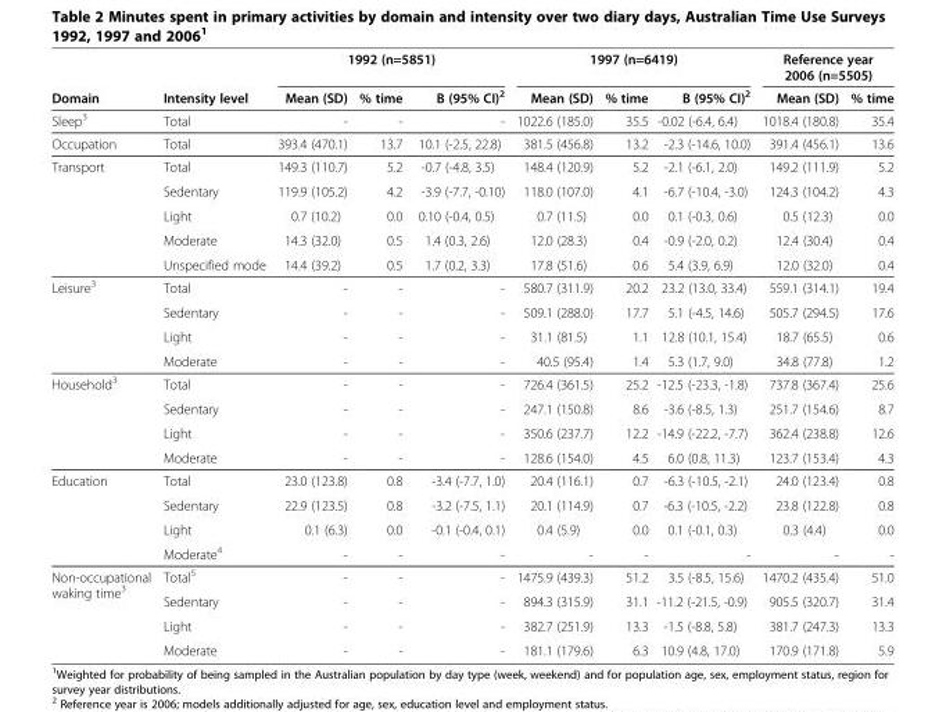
<table><thead><tr><td rowspan="2">Domain</td><td rowspan="2">Intensity level</td><td colspan="3">1992 (n=5851)</td><td colspan="3">1997 (n=6419)</td><td colspan="2">Reference year 2006 (n=5505)</td></tr><tr><td>Mean (SD)</td><td>% time</td><td>B (95% CI)<sup>2</sup></td><td>Mean (SD)</td><td>% time</td><td>B (95% CI)<sup>2</sup></td><td>Mean (SD)</td><td>% time</td></tr></thead><tbody><tr><td>Sleep<sup>3</sup></td><td>Total</td><td>-</td><td>-</td><td>-</td><td>1022.6 (185.0)</td><td>35.5</td><td>-0.02 (-6.4, 6.4)</td><td>1018.4 (180.8)</td><td>35.4</td></tr><tr><td>Occupation</td><td>Total</td><td>393.4 (470.1)</td><td>13.7</td><td>10.1 (-2.5, 22.8)</td><td>381.5 (456.8)</td><td>13.2</td><td>-2.3 (-14.6, 10.0)</td><td>391.4 (456.1)</td><td>13.6</td></tr><tr><td rowspan="5">Transport</td><td>Total</td><td>149.3 (110.7)</td><td>5.2</td><td>-0.7 (-4.8, 3.5)</td><td>148.4 (120.9)</td><td>5.2</td><td>-2.1 (-6.1, 2.0)</td><td>149.2 (111.9)</td><td>5.2</td></tr><tr><td>Sedentary</td><td>119.9 (105.2)</td><td>4.2</td><td>-3.9 (-7.7, -0.10)</td><td>118.0 (107.0)</td><td>4.1</td><td>-6.7 (-10.4, -3.0)</td><td>124.3 (104.2)</td><td>4.3</td></tr><tr><td>Light</td><td>0.7 (10.2)</td><td>0.0</td><td>0.10 (-0.4, 0.5)</td><td>0.7 (11.5)</td><td>0.0</td><td>0.1 (-0.3, 0.6)</td><td>0.5 (12.3)</td><td>0.0</td></tr><tr><td>Moderate</td><td>14.3 (32.0)</td><td>0.5</td><td>1.4 (0.3, 2.6)</td><td>12.0 (28.3)</td><td>0.4</td><td>-0.9 (-2.0, 0.2)</td><td>12.4 (30.4)</td><td>0.4</td></tr><tr><td>Unspecified mode</td><td>14.4 (39.2)</td><td>0.5</td><td>1.7 (0.2, 3.3)</td><td>17.8 (51.6)</td><td>0.6</td><td>5.4 (3.9, 6.9)</td><td>12.0 (32.0)</td><td>0.4</td></tr><tr><td rowspan="4">Leisure<sup>3</sup></td><td>Total</td><td>-</td><td>-</td><td>-</td><td>580.7 (311.9)</td><td>20.2</td><td>23.2 (13.0, 33.4)</td><td>559.1 (314.1)</td><td>19.4</td></tr><tr><td>Sedentary</td><td>-</td><td>-</td><td>-</td><td>509.1 (288.0)</td><td>17.7</td><td>5.1 (-4.5, 14.6)</td><td>505.7 (294.5)</td><td>17.6</td></tr><tr><td>Light</td><td>-</td><td>-</td><td>-</td><td>31.1 (81.5)</td><td>1.1</td><td>12.8 (10.1, 15.4)</td><td>18.7 (65.5)</td><td>0.6</td></tr><tr><td>Moderate</td><td>-</td><td>-</td><td>-</td><td>40.5 (95.4)</td><td>1.4</td><td>5.3 (1.7, 9.0)</td><td>34.8 (77.8)</td><td>1.2</td></tr><tr><td rowspan="4">Household<sup>3</sup></td><td>Total</td><td>-</td><td>-</td><td>-</td><td>726.4 (361.5)</td><td>25.2</td><td>-12.5 (-23.3, -1.8)</td><td>737.8 (367.4)</td><td>25.6</td></tr><tr><td>Sedentary</td><td>-</td><td>-</td><td>-</td><td>247.1 (150.8)</td><td>8.6</td><td>-3.6 (-8.5, 1.3)</td><td>251.7 (154.6)</td><td>8.7</td></tr><tr><td>Light</td><td>-</td><td>-</td><td>-</td><td>350.6 (237.7)</td><td>12.2</td><td>-14.9 (-22.2, -7.7)</td><td>362.4 (238.8)</td><td>12.6</td></tr><tr><td>Moderate</td><td>-</td><td>-</td><td>-</td><td>128.6 (154.0)</td><td>4.5</td><td>6.0 (0.8, 11.3)</td><td>123.7 (153.4)</td><td>4.3</td></tr><tr><td rowspan="4">Education</td><td>Total</td><td>23.0 (123.8)</td><td>0.8</td><td>-3.4 (-7.7, 1.0)</td><td>20.4 (116.1)</td><td>0.7</td><td>-6.3 (-10.5, -2.1)</td><td>24.0 (123.4)</td><td>0.8</td></tr><tr><td>Sedentary</td><td>22.9 (123.5)</td><td>0.8</td><td>-3.2 (-7.5, 1.1)</td><td>20.1 (114.9)</td><td>0.7</td><td>-6.3 (-10.5, -2.2)</td><td>23.8 (122.8)</td><td>0.8</td></tr><tr><td>Light</td><td>0.1 (6.3)</td><td>0.0</td><td>-0.1 (-0.4, 0.1)</td><td>0.4 (5.9)</td><td>0.0</td><td>0.1 (-0.1, 0.3)</td><td>0.3 (4.4)</td><td>0.0</td></tr><tr><td>Moderate<sup>4</sup></td><td>-</td><td>-</td><td>-</td><td>-</td><td>-</td><td>-</td><td>-</td><td>-</td></tr><tr><td rowspan="4">Non-occupational waking time<sup>3</sup></td><td>Total<sup>5</sup></td><td>-</td><td>-</td><td>-</td><td>1475.9 (439.3)</td><td>51.2</td><td>3.5 (-8.5, 15.6)</td><td>1470.2 (435.4)</td><td>51.0</td></tr><tr><td>Sedentary</td><td>-</td><td>-</td><td>-</td><td>894.3 (315.9)</td><td>31.1</td><td>-11.2 (-21.5, -0.9)</td><td>905.5 (320.7)</td><td>31.4</td></tr><tr><td>Light</td><td>-</td><td>-</td><td>-</td><td>382.7 (251.9)</td><td>13.3</td><td>-1.5 (-8.8, 5.8)</td><td>381.7 (247.3)</td><td>13.3</td></tr><tr><td>Moderate</td><td>-</td><td>-</td><td>-</td><td>181.1 (179.6)</td><td>6.3</td><td>10.9 (4.8, 17.0)</td><td>170.9 (171.8)</td><td>5.9</td></tr></tbody></table>